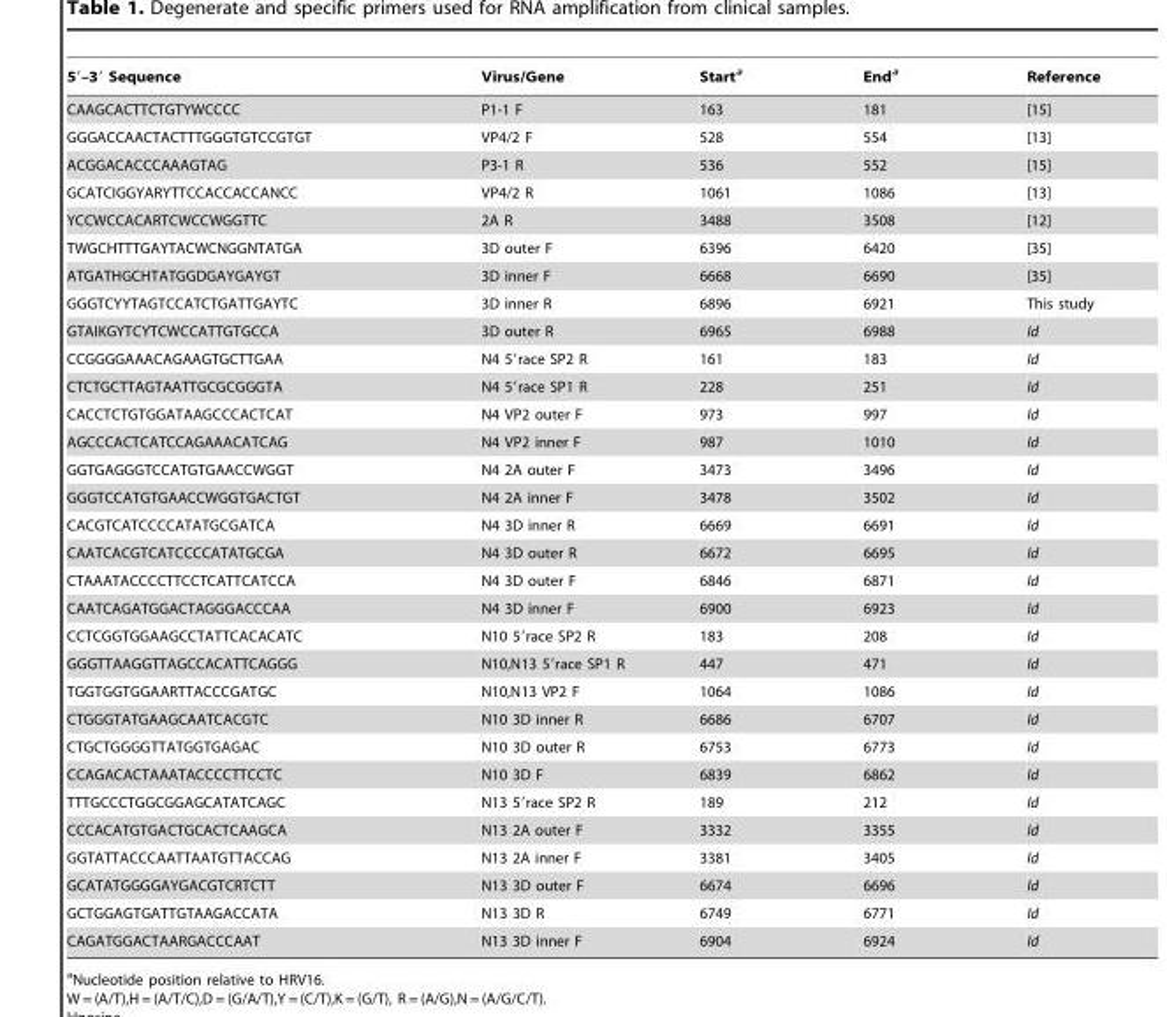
<table><thead><tr><td>5′–3′ Sequence</td><td>Virus/Gene</td><td>Start<sup>a</sup></td><td>End<sup>a</sup></td><td>Reference</td></tr></thead><tbody><tr><td>CAAGCACTTCTGTYWCCCC</td><td>P1-1 F</td><td>163</td><td>181</td><td>[15]</td></tr><tr><td>GGGACCAACTACTTTGGGTGTCCGTGT</td><td>VP4/2 F</td><td>528</td><td>554</td><td>[13]</td></tr><tr><td>ACGGACACCCAAAGTAG</td><td>P3-1 R</td><td>536</td><td>552</td><td>[15]</td></tr><tr><td>GCATCIGGYARYTTCCACCACCANCC</td><td>VP4/2 R</td><td>1061</td><td>1086</td><td>[13]</td></tr><tr><td>YCCWCCACARTCWCCWGGTTC</td><td>2A R</td><td>3488</td><td>3508</td><td>[12]</td></tr><tr><td>TWGCHTTTGAYTACWCNGGNTATGA</td><td>3D outer F</td><td>6396</td><td>6420</td><td>[35]</td></tr><tr><td>ATGATHGCHTATGGDGAYGAYGT</td><td>3D inner F</td><td>6668</td><td>6690</td><td>[35]</td></tr><tr><td>GGGTCYYTAGTCCATCTGATTGAYTC</td><td>3D inner R</td><td>6896</td><td>6921</td><td>This study</td></tr><tr><td>GTAIKGYTCYTCWCCATTGTGCCA</td><td>3D outer R</td><td>6965</td><td>6988</td><td>Id</td></tr><tr><td>CCGGGGAAACAGAAGTGCTTGAA</td><td>N4 5′race SP2 R</td><td>161</td><td>183</td><td>Id</td></tr><tr><td>CTCTGCTTAGTAATTGCGCGGGTA</td><td>N4 5′race SP1 R</td><td>228</td><td>251</td><td>Id</td></tr><tr><td>CACCTCTGTGGATAAGCCCACTCAT</td><td>N4 VP2 outer F</td><td>973</td><td>997</td><td>Id</td></tr><tr><td>AGCCCACTCATCCAGAAACATCAG</td><td>N4 VP2 inner F</td><td>987</td><td>1010</td><td>Id</td></tr><tr><td>GGTGAGGGTCCATGTGAACCWGGT</td><td>N4 2A outer F</td><td>3473</td><td>3496</td><td>Id</td></tr><tr><td>GGGTCCATGTGAACCWGGTGACTGT</td><td>N4 2A inner F</td><td>3478</td><td>3502</td><td>Id</td></tr><tr><td>CACGTCATCCCCATATGCGATCA</td><td>N4 3D inner R</td><td>6669</td><td>6691</td><td>Id</td></tr><tr><td>CAATCACGTCATCCCCATATGCGA</td><td>N4 3D outer R</td><td>6672</td><td>6695</td><td>Id</td></tr><tr><td>CTAAATACCCCTTCCTCATTCATCCA</td><td>N4 3D outer F</td><td>6846</td><td>6871</td><td>Id</td></tr><tr><td>CAATCAGATGGACTAGGGACCCAA</td><td>N4 3D inner F</td><td>6900</td><td>6923</td><td>Id</td></tr><tr><td>CCTCGGTGGAAGCCTATTCACACATC</td><td>N10 5′race SP2 R</td><td>183</td><td>208</td><td>Id</td></tr><tr><td>GGGTTAAGGTTAGCCACATTCAGGG</td><td>N10,N13 5′race SP1 R</td><td>447</td><td>471</td><td>Id</td></tr><tr><td>TGGTGGTGGAARTTACCCGATGC</td><td>N10,N13 VP2 F</td><td>1064</td><td>1086</td><td>Id</td></tr><tr><td>CTGGGTATGAAGCAATCACGTC</td><td>N10 3D inner R</td><td>6686</td><td>6707</td><td>Id</td></tr><tr><td>CTGCTGGGGTTATGGTGAGAC</td><td>N10 3D outer R</td><td>6753</td><td>6773</td><td>Id</td></tr><tr><td>CCAGACACTAAATACCCCTTCCTC</td><td>N10 3D F</td><td>6839</td><td>6862</td><td>Id</td></tr><tr><td>TTTGCCCTGGCGGAGCATATCAGC</td><td>N13 5′race SP2 R</td><td>189</td><td>212</td><td>Id</td></tr><tr><td>CCCACATGTGACTGCACTCAAGCA</td><td>N13 2A outer F</td><td>3332</td><td>3355</td><td>Id</td></tr><tr><td>GGTATTACCCAATTAATGTTACCAG</td><td>N13 2A inner F</td><td>3381</td><td>3405</td><td>Id</td></tr><tr><td>GCATATGGGGAYGACGTCRTCTT</td><td>N13 3D outer F</td><td>6674</td><td>6696</td><td>Id</td></tr><tr><td>GCTGGAGTGATTGTAAGACCATA</td><td>N13 3D R</td><td>6749</td><td>6771</td><td>Id</td></tr><tr><td>CAGATGGACTAARGACCCAAT</td><td>N13 3D inner F</td><td>6904</td><td>6924</td><td>Id</td></tr></tbody></table>